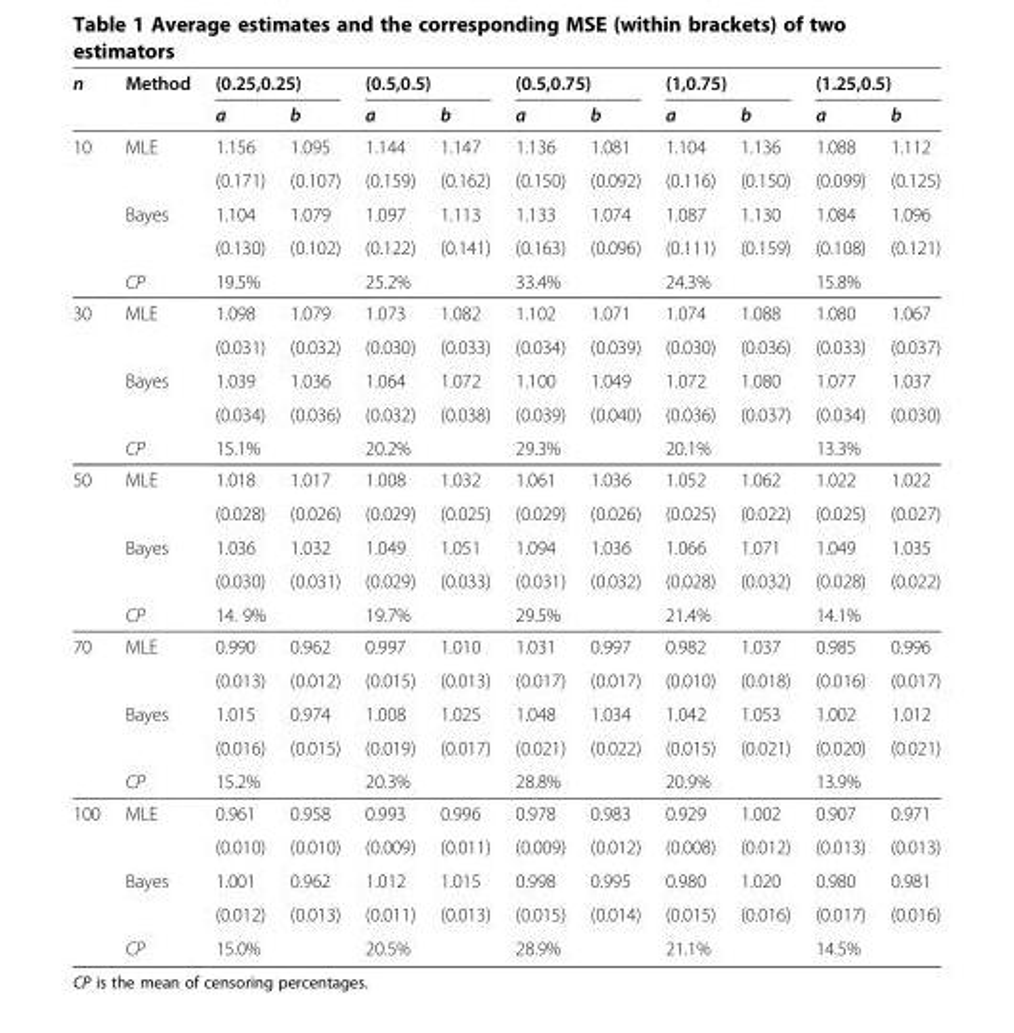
<table><thead><tr><td rowspan="2">n</td><td rowspan="2">Method</td><td colspan="2">(0.25,0.25)</td><td colspan="2">(0.5,0.5)</td><td colspan="2">(0.5,0.75)</td><td colspan="2">(1,0.75)</td><td colspan="2">(1.25,0.5)</td></tr><tr><td>a</td><td>b</td><td>a</td><td>b</td><td>a</td><td>b</td><td>a</td><td>b</td><td>a</td><td>b</td></tr></thead><tbody><tr><td rowspan="5">10</td><td rowspan="2">MLE</td><td>1.156</td><td>1.095</td><td>1.144</td><td>1.147</td><td>1.136</td><td>1.081</td><td>1.104</td><td>1.136</td><td>1.088</td><td>1.112</td></tr><tr><td>(0.171)</td><td>(0.107)</td><td>(0.159)</td><td>(0.162)</td><td>(0.150)</td><td>(0.092)</td><td>(0.116)</td><td>(0.150)</td><td>(0.099)</td><td>(0.125)</td></tr><tr><td rowspan="2">Bayes</td><td>1.104</td><td>1.079</td><td>1.097</td><td>1.113</td><td>1.133</td><td>1.074</td><td>1.087</td><td>1.130</td><td>1.084</td><td>1.096</td></tr><tr><td>(0.130)</td><td>(0.102)</td><td>(0.122)</td><td>(0.141)</td><td>(0.163)</td><td>(0.096)</td><td>(0.111)</td><td>(0.159)</td><td>(0.108)</td><td>(0.121)</td></tr><tr><td>CP</td><td colspan="2">19.5%</td><td colspan="2">25.2%</td><td colspan="2">33.4%</td><td colspan="2">24.3%</td><td colspan="2">15.8%</td></tr><tr><td rowspan="5">30</td><td rowspan="2">MLE</td><td>1.098</td><td>1.079</td><td>1.073</td><td>1.082</td><td>1.102</td><td>1.071</td><td>1.074</td><td>1.088</td><td>1.080</td><td>1.067</td></tr><tr><td>(0.031)</td><td>(0.032)</td><td>(0.030)</td><td>(0.033)</td><td>(0.034)</td><td>(0.039)</td><td>(0.030)</td><td>(0.036)</td><td>(0.033)</td><td>(0.037)</td></tr><tr><td rowspan="2">Bayes</td><td>1.039</td><td>1.036</td><td>1.064</td><td>1.072</td><td>1.100</td><td>1.049</td><td>1.072</td><td>1.080</td><td>1.077</td><td>1.037</td></tr><tr><td>(0.034)</td><td>(0.036)</td><td>(0.032)</td><td>(0.038)</td><td>(0.039)</td><td>(0.040)</td><td>(0.036)</td><td>(0.037)</td><td>(0.034)</td><td>(0.030)</td></tr><tr><td>CP</td><td colspan="2">15.1%</td><td colspan="2">20.2%</td><td colspan="2">29.3%</td><td colspan="2">20.1%</td><td colspan="2">13.3%</td></tr><tr><td rowspan="5">50</td><td rowspan="2">MLE</td><td>1.018</td><td>1.017</td><td>1.008</td><td>1.032</td><td>1.061</td><td>1.036</td><td>1.052</td><td>1.062</td><td>1.022</td><td>1.022</td></tr><tr><td>(0.028)</td><td>(0.026)</td><td>(0.029)</td><td>(0.025)</td><td>(0.029)</td><td>(0.026)</td><td>(0.025)</td><td>(0.022)</td><td>(0.025)</td><td>(0.027)</td></tr><tr><td rowspan="2">Bayes</td><td>1.036</td><td>1.032</td><td>1.049</td><td>1.051</td><td>1.094</td><td>1.036</td><td>1.066</td><td>1.071</td><td>1.049</td><td>1.035</td></tr><tr><td>(0.030)</td><td>(0.031)</td><td>(0.029)</td><td>(0.033)</td><td>(0.031)</td><td>(0.032)</td><td>(0.028)</td><td>(0.032)</td><td>(0.028)</td><td>(0.022)</td></tr><tr><td>CP</td><td colspan="2">14. 9%</td><td colspan="2">19.7%</td><td colspan="2">29.5%</td><td colspan="2">21.4%</td><td colspan="2">14.1%</td></tr><tr><td rowspan="5">70</td><td rowspan="2">MLE</td><td>0.990</td><td>0.962</td><td>0.997</td><td>1.010</td><td>1.031</td><td>0.997</td><td>0.982</td><td>1.037</td><td>0.985</td><td>0.996</td></tr><tr><td>(0.013)</td><td>(0.012)</td><td>(0.015)</td><td>(0.013)</td><td>(0.017)</td><td>(0.017)</td><td>(0.010)</td><td>(0.018)</td><td>(0.016)</td><td>(0.017)</td></tr><tr><td rowspan="2">Bayes</td><td>1.015</td><td>0.974</td><td>1.008</td><td>1.025</td><td>1.048</td><td>1.034</td><td>1.042</td><td>1.053</td><td>1.002</td><td>1.012</td></tr><tr><td>(0.016)</td><td>(0.015)</td><td>(0.019)</td><td>(0.017)</td><td>(0.021)</td><td>(0.022)</td><td>(0.015)</td><td>(0.021)</td><td>(0.020)</td><td>(0.021)</td></tr><tr><td>CP</td><td colspan="2">15.2%</td><td colspan="2">20.3%</td><td colspan="2">28.8%</td><td colspan="2">20.9%</td><td colspan="2">13.9%</td></tr><tr><td rowspan="5">100</td><td rowspan="2">MLE</td><td>0.961</td><td>0.958</td><td>0.993</td><td>0.996</td><td>0.978</td><td>0.983</td><td>0.929</td><td>1.002</td><td>0.907</td><td>0.971</td></tr><tr><td>(0.010)</td><td>(0.010)</td><td>(0.009)</td><td>(0.011)</td><td>(0.009)</td><td>(0.012)</td><td>(0.008)</td><td>(0.012)</td><td>(0.013)</td><td>(0.013)</td></tr><tr><td rowspan="2">Bayes</td><td>1.001</td><td>0.962</td><td>1.012</td><td>1.015</td><td>0.998</td><td>0.995</td><td>0.980</td><td>1.020</td><td>0.980</td><td>0.981</td></tr><tr><td>(0.012)</td><td>(0.013)</td><td>(0.011)</td><td>(0.013)</td><td>(0.015)</td><td>(0.014)</td><td>(0.015)</td><td>(0.016)</td><td>(0.017)</td><td>(0.016)</td></tr><tr><td>CP</td><td colspan="2">15.0%</td><td colspan="2">20.5%</td><td colspan="2">28.9%</td><td colspan="2">21.1%</td><td colspan="2">14.5%</td></tr></tbody></table>